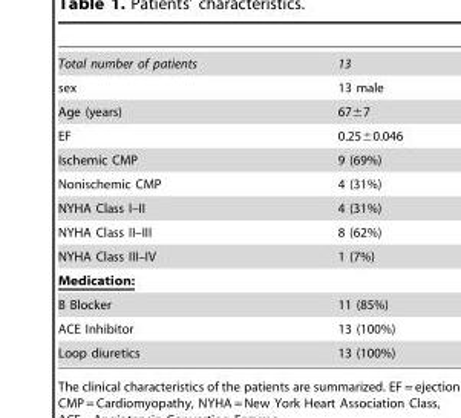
<table><tbody><tr><td>Total number of patients</td><td>13</td></tr><tr><td>sex</td><td>13 male</td></tr><tr><td>Age (years)</td><td>67±7</td></tr><tr><td>EF</td><td>0.25±0.046</td></tr><tr><td>Ischemic CMP</td><td>9 (69%)</td></tr><tr><td>Nonischemic CMP</td><td>4 (31%)</td></tr><tr><td>NYHA Class I–II</td><td>4 (31%)</td></tr><tr><td>NYHA Class II–III</td><td>8 (62%)</td></tr><tr><td>NYHA Class III–IV</td><td>1 (7%)</td></tr><tr><td colspan="2">Medication:</td></tr><tr><td>B Blocker</td><td>11 (85%)</td></tr><tr><td>ACE Inhibitor</td><td>13 (100%)</td></tr><tr><td>Loop diuretics</td><td>13 (100%)</td></tr></tbody></table>